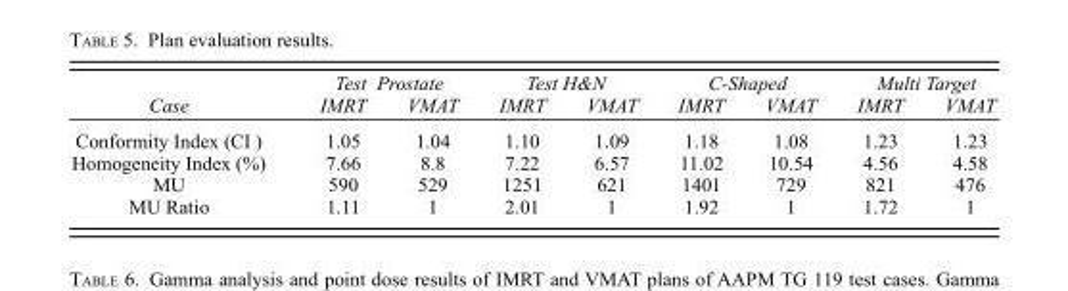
<table><thead><tr><td rowspan="2">Case</td><td colspan="2">Test Prostate</td><td colspan="2">Test H&amp;N</td><td colspan="2">C-Shaped</td><td colspan="2">Multi Target</td></tr><tr><td>IMRT</td><td>VMAT</td><td>IMRT</td><td>VMAT</td><td>IMRT</td><td>VMAT</td><td>IMRT</td><td>VMAT</td></tr></thead><tbody><tr><td>Conformity Index (CI )</td><td>1.05</td><td>1.04</td><td>1.10</td><td>1.09</td><td>1.18</td><td>1.08</td><td>1.23</td><td>1.23</td></tr><tr><td>Homogeneity Index (%)</td><td>7.66</td><td>8.8</td><td>7.22</td><td>6.57</td><td>11.02</td><td>10.54</td><td>4.56</td><td>4.58</td></tr><tr><td>MU</td><td>590</td><td>529</td><td>1251</td><td>621</td><td>1401</td><td>729</td><td>821</td><td>476</td></tr><tr><td>MU Ratio</td><td>1.11</td><td>1</td><td>2.01</td><td>1</td><td>1.92</td><td>1</td><td>1.72</td><td>1</td></tr></tbody></table>